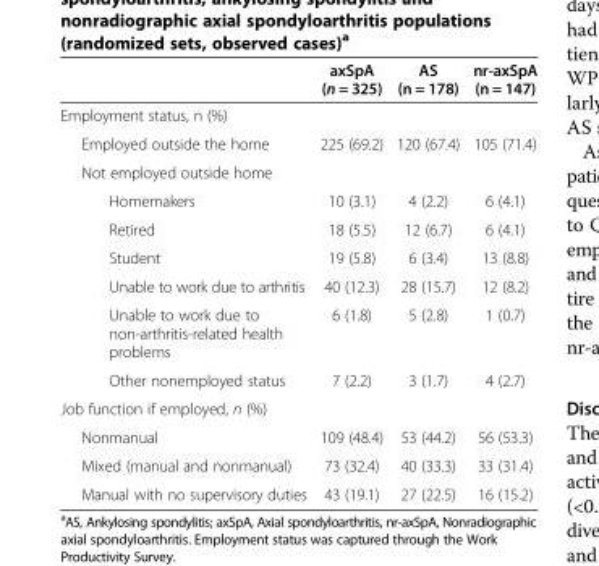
<table><thead><tr><td></td><td>axSpA (n = 325)</td><td>AS (n = 178)</td><td>nr-axSpA (n = 147)</td></tr></thead><tbody><tr><td colspan="4">Employment status, n (%)</td></tr><tr><td>Employed outside the home</td><td>225 (69.2)</td><td>120 (67.4)</td><td>105 (71.4)</td></tr><tr><td colspan="4">Not employed outside home</td></tr><tr><td>Homemakers</td><td>10 (3.1)</td><td>4 (2.2)</td><td>6 (4.1)</td></tr><tr><td>Retired</td><td>18 (5.5)</td><td>12 (6.7)</td><td>6 (4.1)</td></tr><tr><td>Student</td><td>19 (5.8)</td><td>6 (3.4)</td><td>13 (8.8)</td></tr><tr><td>Unable to work due to arthritis</td><td>40 (12.3)</td><td>28 (15.7)</td><td>12 (8.2)</td></tr><tr><td>Unable to work due to non-arthritis-related health problems</td><td>6 (1.8)</td><td>5 (2.8)</td><td>1 (0.7)</td></tr><tr><td>Other nonemployed status</td><td>7 (2.2)</td><td>3 (1.7)</td><td>4 (2.7)</td></tr><tr><td colspan="4">Job function if employed, n (%)</td></tr><tr><td>Nonmanual</td><td>109 (48.4)</td><td>53 (44.2)</td><td>56 (53.3)</td></tr><tr><td>Mixed (manual and nonmanual)</td><td>73 (32.4)</td><td>40 (33.3)</td><td>33 (31.4)</td></tr><tr><td>Manual with no supervisory duties</td><td>43 (19.1)</td><td>27 (22.5)</td><td>16 (15.2)</td></tr></tbody></table>